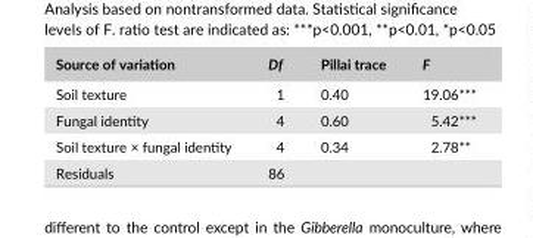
<table><thead><tr><td>Source of variation</td><td>Df</td><td>Pillai trace</td><td>F</td></tr></thead><tbody><tr><td>Soil texture</td><td>1</td><td>0.40</td><td>19.06***</td></tr><tr><td>Fungal identity</td><td>4</td><td>0.60</td><td>5.42***</td></tr><tr><td>Soil texture × fungal identity</td><td>4</td><td>0.34</td><td>2.78**</td></tr><tr><td>Residuals</td><td>86</td><td></td><td></td></tr></tbody></table>